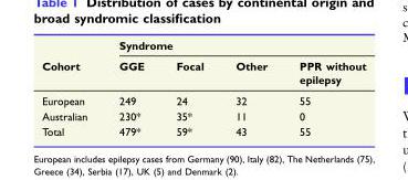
<table><thead><tr><td rowspan="2">Cohort</td><td colspan="4">Syndrome</td></tr><tr><td>GGE</td><td>Focal</td><td>Other</td><td>PPR without epilepsy</td></tr></thead><tbody><tr><td>European</td><td>249</td><td>24</td><td>32</td><td>55</td></tr><tr><td>Australian</td><td>230*</td><td>35*</td><td>11</td><td>0</td></tr><tr><td>Total</td><td>479*</td><td>59*</td><td>43</td><td>55</td></tr></tbody></table>